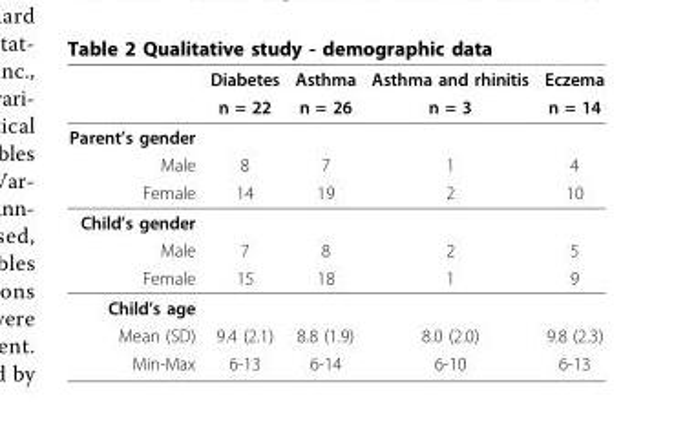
<table><thead><tr><td rowspan="2"></td><td rowspan="2">Diabetes n = 22</td><td rowspan="2">Asthma n = 26</td><td rowspan="2">Asthma and rhinitis n = 3</td><td rowspan="2">Eczema n = 14</td></tr><tr></tr></thead><tbody><tr><td colspan="5">Parent’s gender</td></tr><tr><td>Male</td><td>8</td><td>7</td><td>1</td><td>4</td></tr><tr><td>Female</td><td>14</td><td>19</td><td>2</td><td>10</td></tr><tr><td colspan="5">Child’s gender</td></tr><tr><td>Male</td><td>7</td><td>8</td><td>2</td><td>5</td></tr><tr><td>Female</td><td>15</td><td>18</td><td>1</td><td>9</td></tr><tr><td colspan="5">Child’s age</td></tr><tr><td>Mean (SD)</td><td>9.4 (2.1)</td><td>8.8 (1.9)</td><td>8.0 (2.0)</td><td>9.8 (2.3)</td></tr><tr><td>Min-Max</td><td>6-13</td><td>6-14</td><td>6-10</td><td>6-13</td></tr></tbody></table>